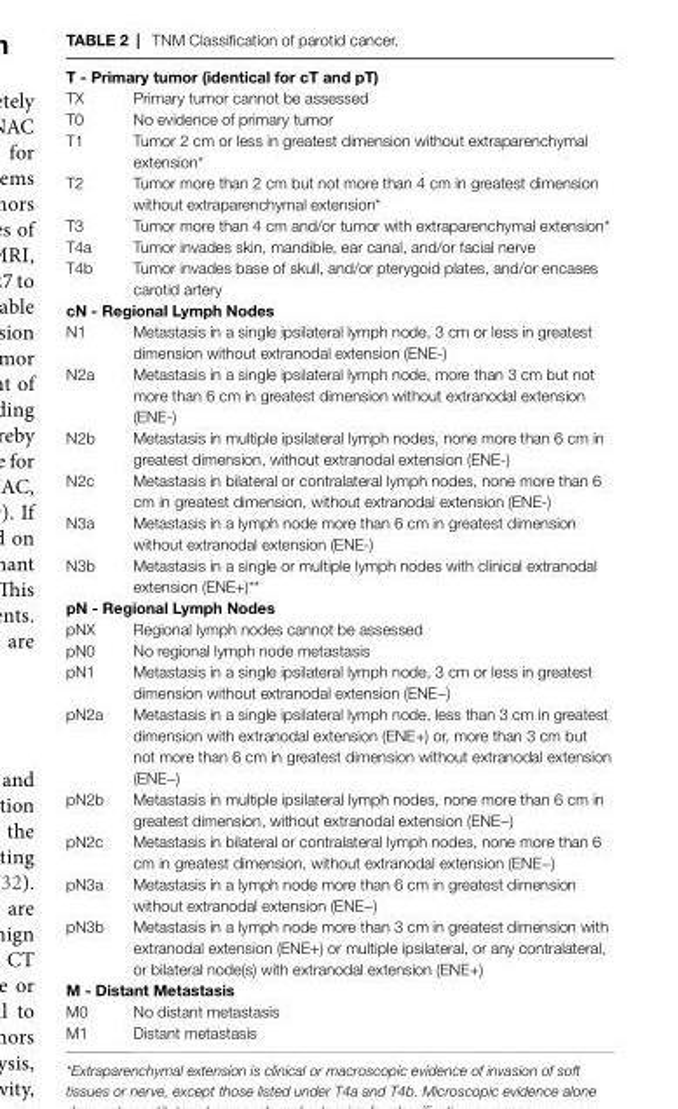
<table><tbody><tr><td colspan="2">T - Primary tumor (identical for cT and pT)</td></tr><tr><td>TX</td><td>Primary tumor cannot be assessed</td></tr><tr><td>T0</td><td>No evidence of primary tumor</td></tr><tr><td>T1</td><td>Tumor 2 cm or less in greatest dimension without extraparenchymal extension*</td></tr><tr><td>T2</td><td>Tumor more than 2 cm but not more than 4 cm in greatest dimension without extraparenchymal extension*</td></tr><tr><td>T3</td><td>Tumor more than 4 cm and/or tumor with extraparenchymal extension*</td></tr><tr><td>T4a</td><td>Tumor invades skin, mandible, ear canal, and/or facial nerve</td></tr><tr><td>T4b</td><td>Tumor invades base of skull, and/or pterygoid plates, and/or encases carotid artery</td></tr><tr><td colspan="2">cn - Regional lymph nodes</td></tr><tr><td>N1</td><td>Metastasis in a single ipsilateral lymph node, 3 cm or less in greatest dimension without extranodal extension (ENE-)</td></tr><tr><td>N2a</td><td>Metastasis in a single ipsilateral lymph node, more than 3 cm but not more than 6 cm in greatest dimension without extranodal extension (ENE-)</td></tr><tr><td>N2b</td><td>Metastasis in multiple ipsilateral lymph nodes, none more than 6 cm in greatest dimension, without extranodal extension (ENE-)</td></tr><tr><td>N2c</td><td>Metastasis in bilateral or contralateral lymph nodes, none more than 6 cm in greatest dimension, without extranodal extension (ENE-)</td></tr><tr><td>N3a</td><td>Metastasis in a lymph node more than 6 cm in greatest dimension without extranodal extension (ENE-)</td></tr><tr><td>N3b</td><td>Metastasis in a single or multiple lymph nodes with clinical extranodal extension (ENE+)**</td></tr><tr><td colspan="2">pn - Regional lymph nodes</td></tr><tr><td>pNX</td><td>Regional lymph nodes cannot be assessed</td></tr><tr><td>pN0</td><td>No regional lymph node metastasis</td></tr><tr><td>pN1</td><td>Metastasis in a single ipsilateral lymph node, 3 cm or less in greatest dimension without extranodal extension (ENE−)</td></tr><tr><td>pN2a</td><td>Metastasis in a single ipsilateral lymph node, less than 3 cm in greatest dimension with extranodal extension (ENE+) or, more than 3 cm but not more than 6 cm in greatest dimension without extranodal extension (ENE−)</td></tr><tr><td>pN2b</td><td>Metastasis in multiple ipsilateral lymph nodes, none more than 6 cm in greatest dimension, without extranodal extension (ENE−)</td></tr><tr><td>pN2c</td><td>Metastasis in bilateral or contralateral lymph nodes, none more than 6 cm in greatest dimension, without extranodal extension (ENE−)</td></tr><tr><td>pN3a</td><td>Metastasis in a lymph node more than 6 cm in greatest dimension without extranodal extension (ENE−)</td></tr><tr><td>pN3b</td><td>Metastasis in a lymph node more than 3 cm in greatest dimension with extranodal extension (ENE+) or multiple ipsilateral, or any contralateral, or bilateral node(s) with extranodal extension (ENE+)</td></tr><tr><td colspan="2">M - distant Metastasis</td></tr><tr><td>M0</td><td>No distant metastasis</td></tr><tr><td>M1</td><td>Distant metastasis</td></tr></tbody></table>